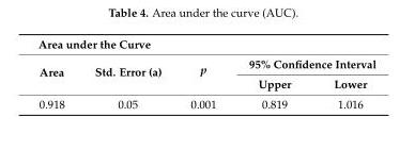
<table><thead><tr><td colspan="2">Area under the Curve</td><td rowspan="3">p</td><td></td><td></td></tr><tr><td rowspan="2">Area</td><td rowspan="2">Std. Error (a)</td><td colspan="2">95% Confidence Interval</td></tr><tr><td>Upper</td><td>Lower</td></tr></thead><tbody><tr><td>0.918</td><td>0.05</td><td>0.001</td><td>0.819</td><td>1.016</td></tr></tbody></table>